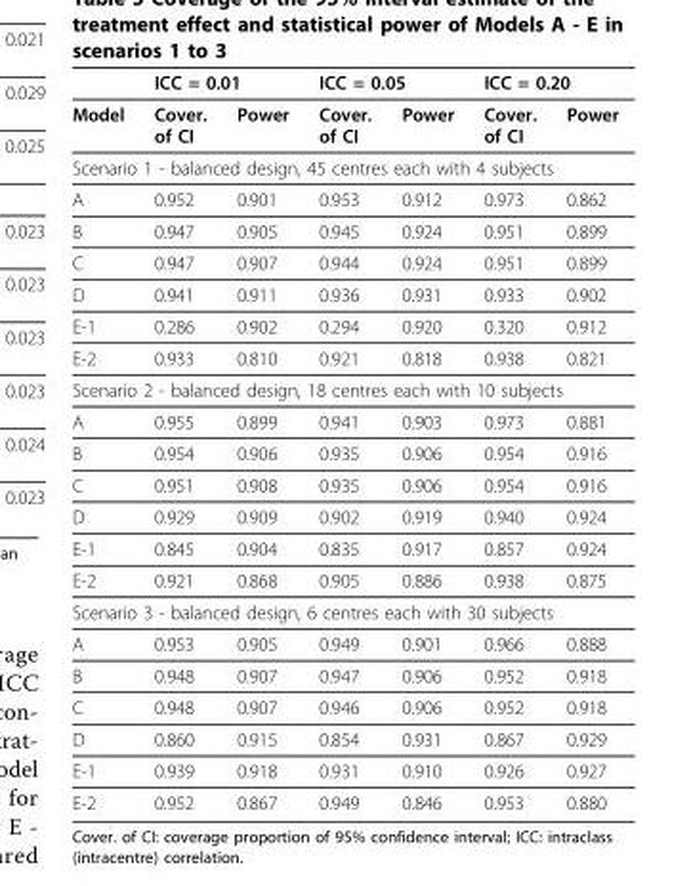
<table><thead><tr><td rowspan="2">Model</td><td colspan="2">ICC = 0.01</td><td colspan="2">ICC = 0.05</td><td colspan="2">ICC = 0.20</td></tr><tr><td>Cover. of CI</td><td>Power</td><td>Cover. of CI</td><td>Power</td><td>Cover. of CI</td><td>Power</td></tr></thead><tbody><tr><td colspan="7">Scenario 1 - balanced design, 45 centres each with 4 subjects</td></tr><tr><td>A</td><td>0.952</td><td>0.901</td><td>0.953</td><td>0.912</td><td>0.973</td><td>0.862</td></tr><tr><td>B</td><td>0.947</td><td>0.905</td><td>0.945</td><td>0.924</td><td>0.951</td><td>0.899</td></tr><tr><td>C</td><td>0.947</td><td>0.907</td><td>0.944</td><td>0.924</td><td>0.951</td><td>0.899</td></tr><tr><td>D</td><td>0.941</td><td>0.911</td><td>0.936</td><td>0.931</td><td>0.933</td><td>0.902</td></tr><tr><td>E-1</td><td>0.286</td><td>0.902</td><td>0.294</td><td>0.920</td><td>0.320</td><td>0.912</td></tr><tr><td>E-2</td><td>0.933</td><td>0.810</td><td>0.921</td><td>0.818</td><td>0.938</td><td>0.821</td></tr><tr><td colspan="7">Scenario 2 - balanced design, 18 centres each with 10 subjects</td></tr><tr><td>A</td><td>0.955</td><td>0.899</td><td>0.941</td><td>0.903</td><td>0.973</td><td>0.881</td></tr><tr><td>B</td><td>0.954</td><td>0.906</td><td>0.935</td><td>0.906</td><td>0.954</td><td>0.916</td></tr><tr><td>C</td><td>0.951</td><td>0.908</td><td>0.935</td><td>0.906</td><td>0.954</td><td>0.916</td></tr><tr><td>D</td><td>0.929</td><td>0.909</td><td>0.902</td><td>0.919</td><td>0.940</td><td>0.924</td></tr><tr><td>E-1</td><td>0.845</td><td>0.904</td><td>0.835</td><td>0.917</td><td>0.857</td><td>0.924</td></tr><tr><td>E-2</td><td>0.921</td><td>0.868</td><td>0.905</td><td>0.886</td><td>0.938</td><td>0.875</td></tr><tr><td colspan="7">Scenario 3 - balanced design, 6 centres each with 30 subjects</td></tr><tr><td>A</td><td>0.953</td><td>0.905</td><td>0.949</td><td>0.901</td><td>0.966</td><td>0.888</td></tr><tr><td>B</td><td>0.948</td><td>0.907</td><td>0.947</td><td>0.906</td><td>0.952</td><td>0.918</td></tr><tr><td>C</td><td>0.948</td><td>0.907</td><td>0.946</td><td>0.906</td><td>0.952</td><td>0.918</td></tr><tr><td>D</td><td>0.860</td><td>0.915</td><td>0.854</td><td>0.931</td><td>0.867</td><td>0.929</td></tr><tr><td>E-1</td><td>0.939</td><td>0.918</td><td>0.931</td><td>0.910</td><td>0.926</td><td>0.927</td></tr><tr><td>E-2</td><td>0.952</td><td>0.867</td><td>0.949</td><td>0.846</td><td>0.953</td><td>0.880</td></tr></tbody></table>